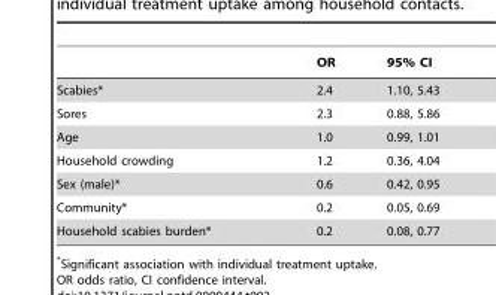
<table><thead><tr><td></td><td>OR</td><td>95% CI</td></tr></thead><tbody><tr><td>Scabies*</td><td>2.4</td><td>1.10, 5.43</td></tr><tr><td>Sores</td><td>2.3</td><td>0.88, 5.86</td></tr><tr><td>Age</td><td>1.0</td><td>0.99, 1.01</td></tr><tr><td>Household crowding</td><td>1.2</td><td>0.36, 4.04</td></tr><tr><td>Sex (male)*</td><td>0.6</td><td>0.42, 0.95</td></tr><tr><td>Community*</td><td>0.2</td><td>0.05, 0.69</td></tr><tr><td>Household scabies burden*</td><td>0.2</td><td>0.08, 0.77</td></tr></tbody></table>